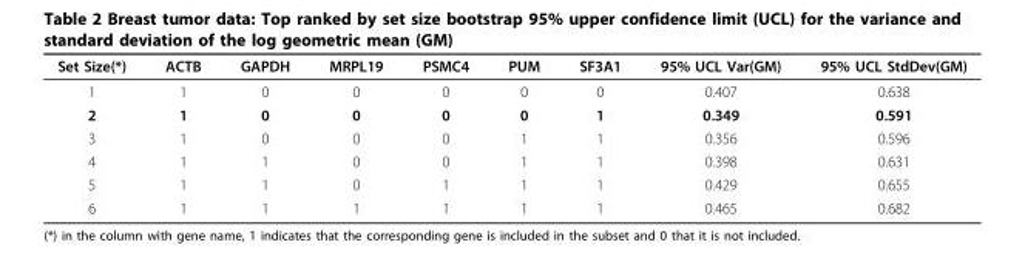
<table><thead><tr><td>Set Size(*)</td><td>ACTB</td><td>GAPDH</td><td>MRPL19</td><td>PSMC4</td><td>PUM</td><td>SF3A1</td><td>95% UCL Var(GM)</td><td>95% UCL StdDev(GM)</td></tr></thead><tbody><tr><td>1</td><td>1</td><td>0</td><td>0</td><td>0</td><td>0</td><td>0</td><td>0.407</td><td>0.638</td></tr><tr><td>2</td><td>1</td><td>0</td><td>0</td><td>0</td><td>0</td><td>1</td><td>0.349</td><td>0.591</td></tr><tr><td>3</td><td>1</td><td>0</td><td>0</td><td>0</td><td>1</td><td>1</td><td>0.356</td><td>0.596</td></tr><tr><td>4</td><td>1</td><td>1</td><td>0</td><td>0</td><td>1</td><td>1</td><td>0.398</td><td>0.631</td></tr><tr><td>5</td><td>1</td><td>1</td><td>0</td><td>1</td><td>1</td><td>1</td><td>0.429</td><td>0.655</td></tr><tr><td>6</td><td>1</td><td>1</td><td>1</td><td>1</td><td>1</td><td>1</td><td>0.465</td><td>0.682</td></tr></tbody></table>